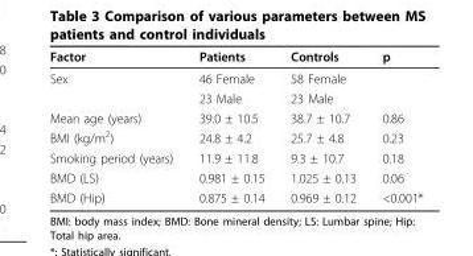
<table><thead><tr><td>Factor</td><td>Patients</td><td>Controls</td><td>p</td></tr></thead><tbody><tr><td rowspan="2">Sex</td><td>46 Female</td><td>58 Female</td><td></td></tr><tr><td>23 Male</td><td>23 Male</td><td></td></tr><tr><td>Mean age (years)</td><td>39.0 ± 10.5</td><td>38.7 ± 10.7</td><td>0.86</td></tr><tr><td>BMI (kg/m<sup>2</sup>)</td><td>24.8 ± 4.2</td><td>25.7 ± 4.8</td><td>0.23</td></tr><tr><td>Smoking period (years)</td><td>11.9 ± 11.8</td><td>9.3 ± 10.7</td><td>0.18</td></tr><tr><td>BMD (LS)</td><td>0.981 ± 0.15</td><td>1.025 ± 0.13</td><td>0.06</td></tr><tr><td>BMD (Hip)</td><td>0.875 ± 0.14</td><td>0.969 ± 0.12</td><td>&lt;0.001*</td></tr></tbody></table>